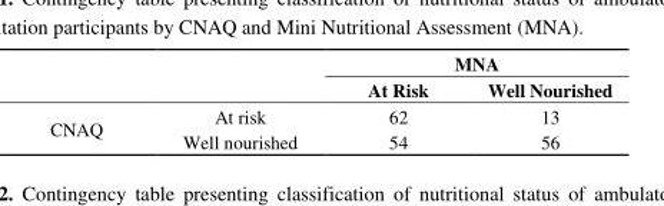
<table><thead><tr><td rowspan="2"></td><td rowspan="2"></td><td colspan="2">MNA</td></tr><tr><td>At Risk</td><td>Well Nourished</td></tr></thead><tbody><tr><td rowspan="2">CNAQ</td><td>At risk</td><td>62</td><td>13</td></tr><tr><td>Well nourished</td><td>54</td><td>56</td></tr></tbody></table>